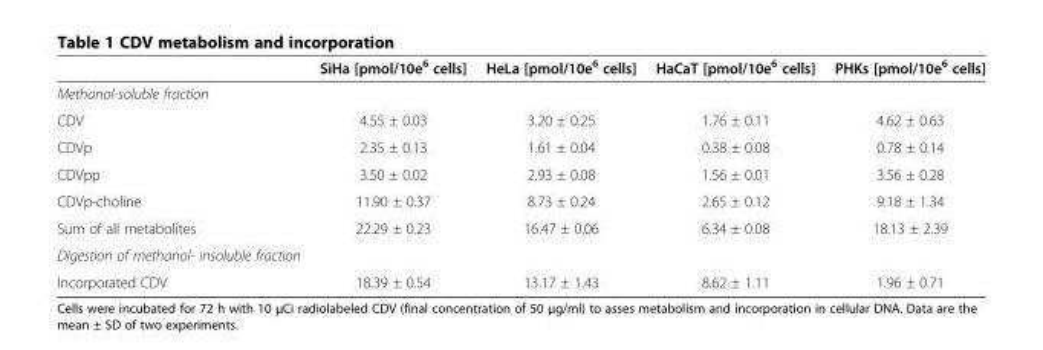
<table><thead><tr><td></td><td>SiHa [pmol/10e<sup>6</sup> cells]</td><td>HeLa [pmol/10e<sup>6</sup> cells]</td><td>HaCaT [pmol/10e<sup>6</sup> cells]</td><td>PHKs [pmol/10e<sup>6</sup> cells]</td></tr></thead><tbody><tr><td colspan="5">Methanol-soluble fraction</td></tr><tr><td>CDV</td><td>4.55 ± 0.03</td><td>3.20 ± 0.25</td><td>1.76 ± 0.11</td><td>4.62 ± 0.63</td></tr><tr><td>CDVp</td><td>2.35 ± 0.13</td><td>1.61 ± 0.04</td><td>0.38 ± 0.08</td><td>0.78 ± 0.14</td></tr><tr><td>CDVpp</td><td>3.50 ± 0.02</td><td>2.93 ± 0.08</td><td>1.56 ± 0.01</td><td>3.56 ± 0.28</td></tr><tr><td>CDVp-choline</td><td>11.90 ± 0.37</td><td>8.73 ± 0.24</td><td>2.65 ± 0.12</td><td>9.18 ± 1.34</td></tr><tr><td>Sum of all metabolites</td><td>22.29 ± 0.23</td><td>16.47 ± 0.06</td><td>6.34 ± 0.08</td><td>18.13 ± 2.39</td></tr><tr><td colspan="5">Digestion of methanol- insoluble fraction</td></tr><tr><td>Incorporated CDV</td><td>18.39 ± 0.54</td><td>13.17 ± 1.43</td><td>8.62 ± 1.11</td><td>1.96 ± 0.71</td></tr></tbody></table>